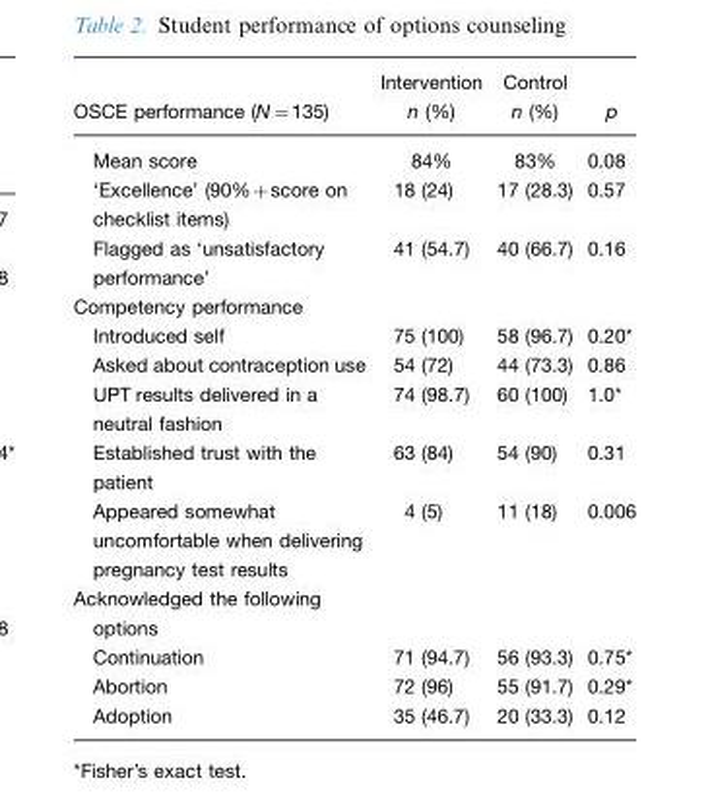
<table><thead><tr><td>OSCE performance (N=135)</td><td>Intervention n (%)</td><td>Control n (%)</td><td>p</td></tr></thead><tbody><tr><td>Mean score</td><td>84%</td><td>83%</td><td>0.08</td></tr><tr><td>‘Excellence’ (90%+score on checklist items)</td><td>18 (24)</td><td>17 (28.3)</td><td>0.57</td></tr><tr><td>Flagged as ‘unsatisfactory performance’</td><td>41 (54.7)</td><td>40 (66.7)</td><td>0.16</td></tr><tr><td colspan="4">Competency performance</td></tr><tr><td>Introduced self</td><td>75 (100)</td><td>58 (96.7)</td><td>0.20*</td></tr><tr><td>Asked about contraception use</td><td>54 (72)</td><td>44 (73.3)</td><td>0.86</td></tr><tr><td>UPT results delivered in a neutral fashion</td><td>74 (98.7)</td><td>60 (100)</td><td>1.0*</td></tr><tr><td>Established trust with the patient</td><td>63 (84)</td><td>54 (90)</td><td>0.31</td></tr><tr><td>Appeared somewhat uncomfortable when delivering pregnancy test results</td><td>4 (5)</td><td>11 (18)</td><td>0.006</td></tr><tr><td colspan="4">Acknowledged the following options</td></tr><tr><td>Continuation</td><td>71 (94.7)</td><td>56 (93.3)</td><td>0.75*</td></tr><tr><td>Abortion</td><td>72 (96)</td><td>55 (91.7)</td><td>0.29*</td></tr><tr><td>Adoption</td><td>35 (46.7)</td><td>20 (33.3)</td><td>0.12</td></tr></tbody></table>